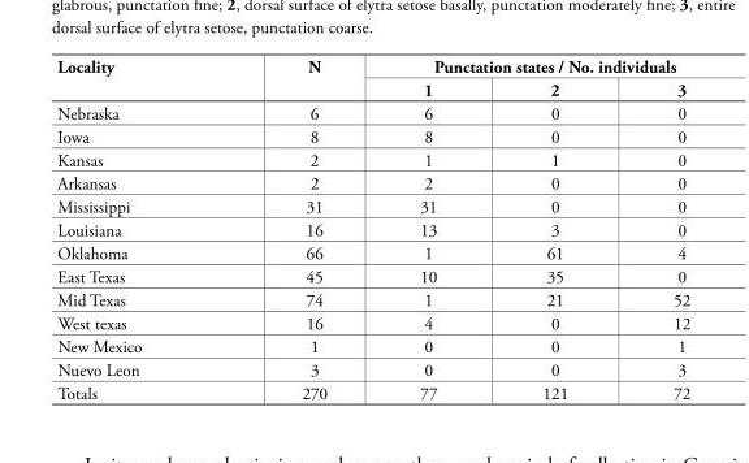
<table><thead><tr><td rowspan="2">Locality</td><td rowspan="2">N</td><td colspan="3">Punctation states / No. individuals</td></tr><tr><td>1</td><td>2</td><td>3</td></tr></thead><tbody><tr><td>Nebraska</td><td>6</td><td>6</td><td>0</td><td>0</td></tr><tr><td>Iowa</td><td>8</td><td>8</td><td>0</td><td>0</td></tr><tr><td>Kansas</td><td>2</td><td>1</td><td>1</td><td>0</td></tr><tr><td>Arkansas</td><td>2</td><td>2</td><td>0</td><td>0</td></tr><tr><td>Mississippi</td><td>31</td><td>31</td><td>0</td><td>0</td></tr><tr><td>Louisiana</td><td>16</td><td>13</td><td>3</td><td>0</td></tr><tr><td>Oklahoma</td><td>66</td><td>1</td><td>61</td><td>4</td></tr><tr><td>East Texas</td><td>45</td><td>10</td><td>35</td><td>0</td></tr><tr><td>Mid Texas</td><td>74</td><td>1</td><td>21</td><td>52</td></tr><tr><td>West texas</td><td>16</td><td>4</td><td>0</td><td>12</td></tr><tr><td>New Mexico</td><td>1</td><td>0</td><td>0</td><td>1</td></tr><tr><td>Nuevo Leon</td><td>3</td><td>0</td><td>0</td><td>3</td></tr><tr><td>Totals</td><td>270</td><td>77</td><td>121</td><td>72</td></tr></tbody></table>